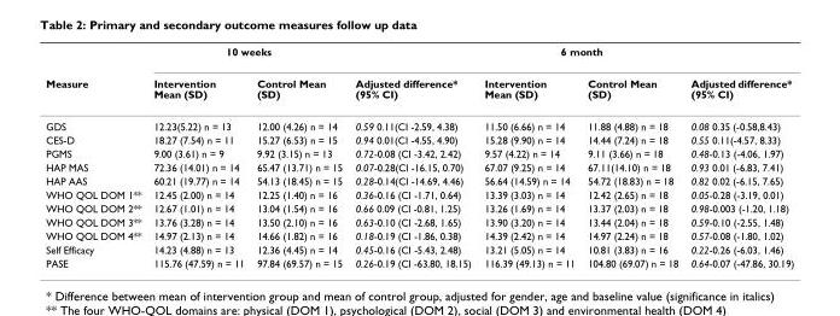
<table><thead><tr><td rowspan="2">Measure</td><td colspan="2">10 weeks</td><td rowspan="2">Adjusted difference* (95% CI)</td><td colspan="2">6 month</td><td rowspan="2">Adjusted difference* (95% CI)</td></tr><tr><td>Intervention Mean (SD)</td><td>Control Mean (SD)</td><td>Intervention Mean (SD)</td><td>Control Mean (SD)</td></tr></thead><tbody><tr><td>GDS</td><td>12.23(5.22) n = 13</td><td>12.00 (4.26) n = 14</td><td>0.59 0.11(CI -2.59, 4.38)</td><td>11.50 (6.66) n = 14</td><td>11.88 (4.88) n = 18</td><td>0.08 0.35 (-0.58,8.43)</td></tr><tr><td>CES-D</td><td>18.27 (7.54) n = 11</td><td>15.27 (6.53) n = 15</td><td>0.94 0.01(CI -4.55, 4.90)</td><td>15.28 (9.90) n = 14</td><td>14.44 (7.24) n = 18</td><td>0.55 0.11(-4.57, 8.33)</td></tr><tr><td>PGMS</td><td>9.00 (3.61) n = 9</td><td>9.92 (3.15) n = 13</td><td>0.72-0.08 (CI -3.42, 2.42)</td><td>9.57 (4.22) n = 14</td><td>9.11 (3.66) n = 18</td><td>0.48-0.13 (-4.06, 1.97)</td></tr><tr><td>HAP MAS</td><td>72.36 (14.01) n = 14</td><td>65.47 (13.71) n = 15</td><td>0.07-0.28(CI -16.15, 0.70)</td><td>67.07 (9.25) n = 14</td><td>67.11(14.10) n = 18</td><td>0.93 0.01 (-6.83, 7.41)</td></tr><tr><td>HAP AAS</td><td>60.21 (19.77) n = 14</td><td>54.13 (18.45) n = 15</td><td>0.28-0.14(CI -14.69, 4.46)</td><td>56.64 (14.59) n = 14</td><td>54.72 (18.83) n = 18</td><td>0.82 0.02 (-6.15, 7.65)</td></tr><tr><td>WHO QOL DOM 1**</td><td>12.45 (2.00) n = 14</td><td>12.25 (1.40) n = 16</td><td>0.36-0.16 (CI -1.71, 0.64)</td><td>13.39 (3.03) n = 14</td><td>12.42 (2.65) n = 18</td><td>0.05-0.28 (-3.19, 0.01)</td></tr><tr><td>WHO QOL DOM 2**</td><td>12.67 (1.01) n = 14</td><td>13.04 (1.54) n = 16</td><td>0.66 0.09 (CI -0.81, 1.25)</td><td>13.26 (1.69) n = 14</td><td>13.37 (2.03) n = 18</td><td>0.98-0.003 (-1.20, 1.18)</td></tr><tr><td>WHO QOL DOM 3**</td><td>13.76 (3.28) n = 14</td><td>13.50 (2.10) n = 16</td><td>0.63-0.10 (CI -2.68, 1.65)</td><td>13.90 (3.20) n = 14</td><td>13.44 (2.04) n = 18</td><td>0.59-0.10 (-2.55, 1.48)</td></tr><tr><td>WHO QOL DOM 4**</td><td>14.97 (2.13) n = 14</td><td>14.66 (1.82) n = 16</td><td>0.18-0.19 (CI -1.86, 0.38)</td><td>14.39 (2.42) n = 14</td><td>14.97 (2.24) n = 18</td><td>0.57-0.08 (-1.80, 1.02)</td></tr><tr><td>Self Efficacy</td><td>14.23 (4.88) n = 13</td><td>12.36 (4.45) n = 14</td><td>0.45-0.16 (CI -5.43, 2.48)</td><td>13.21 (5.05) n = 14</td><td>10.81 (3.83) n = 16</td><td>0.22-0.26 (-6.03, 1.46)</td></tr><tr><td>PASE</td><td>115.76 (47.59) n = 11</td><td>97.84 (69.57) n = 15</td><td>0.26-0.19 (CI -63.80, 18.15)</td><td>116.39 (49.13) n = 11</td><td>104.80 (69.07) n = 18</td><td>0.64-0.07 (-47.86, 30.19)</td></tr></tbody></table>